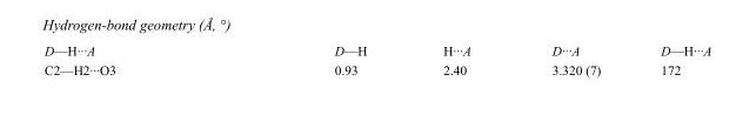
<table><tbody><tr><td>D—H···A</td><td>D—H</td><td>H···A</td><td>D···A</td><td>D—H···A</td></tr><tr><td>C2—H2···O3</td><td>0.93</td><td>2.40</td><td>3.320 (7)</td><td>172</td></tr></tbody></table>